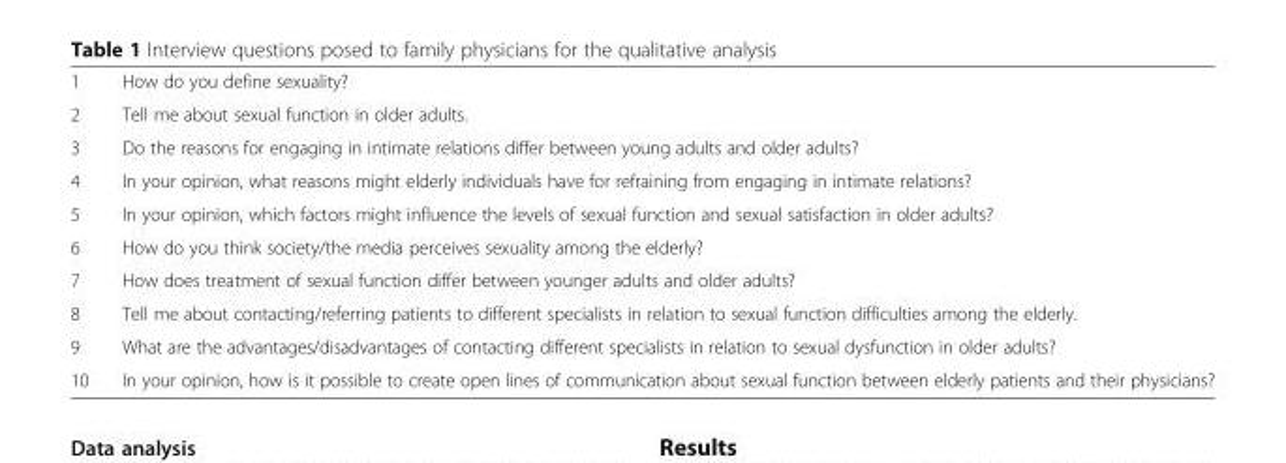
<table><tbody><tr><td>1</td><td>How do you define sexuality?</td></tr><tr><td>2</td><td>Tell me about sexual function in older adults.</td></tr><tr><td>3</td><td>Do the reasons for engaging in intimate relations differ between young adults and older adults?</td></tr><tr><td>4</td><td>In your opinion, what reasons might elderly individuals have for refraining from engaging in intimate relations?</td></tr><tr><td>5</td><td>In your opinion, which factors might influence the levels of sexual function and sexual satisfaction in older adults?</td></tr><tr><td>6</td><td>How do you think society/the media perceives sexuality among the elderly?</td></tr><tr><td>7</td><td>How does treatment of sexual function differ between younger adults and older adults?</td></tr><tr><td>8</td><td>Tell me about contacting/referring patients to different specialists in relation to sexual function difficulties among the elderly.</td></tr><tr><td>9</td><td>What are the advantages/disadvantages of contacting different specialists in relation to sexual dysfunction in older adults?</td></tr><tr><td>10</td><td>In your opinion, how is it possible to create open lines of communication about sexual function between elderly patients and their physicians?</td></tr></tbody></table>